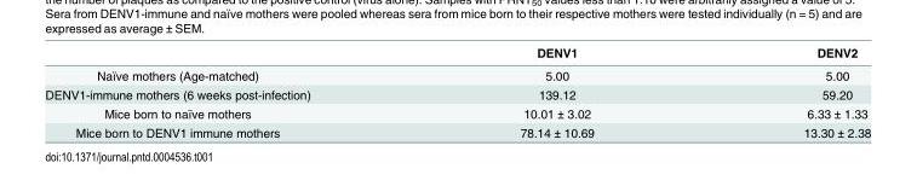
<table><thead><tr><td></td><td>DENV1</td><td>DENV2</td></tr></thead><tbody><tr><td>Naïve mothers (Age-matched)</td><td>5.00</td><td>5.00</td></tr><tr><td>DENV1-immune mothers (6 weeks post-infection)</td><td>139.12</td><td>59.20</td></tr><tr><td>Mice born to naïve mothers</td><td>10.01 ± 3.02</td><td>6.33 ± 1.33</td></tr><tr><td>Mice born to DENV1 immune mothers</td><td>78.14 ± 10.69</td><td>13.30 ± 2.38</td></tr></tbody></table>